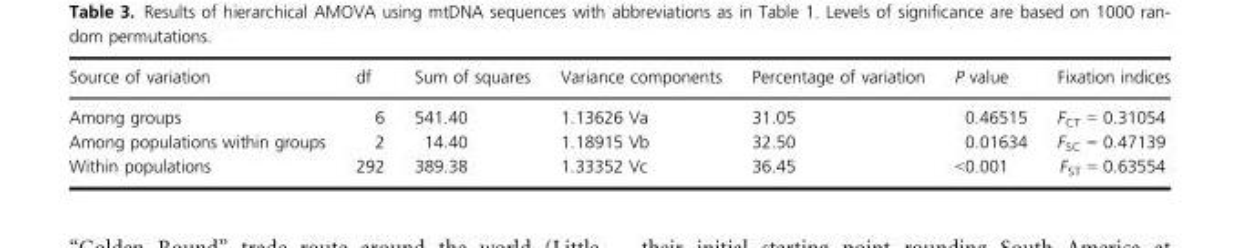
<table><thead><tr><td>Source of variation</td><td>df</td><td>Sum of squares</td><td>Variance components</td><td>Percentage of variation</td><td>P value</td><td>Fixation indices</td></tr></thead><tbody><tr><td>Among groups</td><td>6</td><td>541.40</td><td>1.13626 Va</td><td>31.05</td><td>0.46515</td><td>F<sub>CT</sub> = 0.31054</td></tr><tr><td>Among populations within groups</td><td>2</td><td>14.40</td><td>1.18915 Vb</td><td>32.50</td><td>0.01634</td><td>F<sub>SC</sub> = 0.47139</td></tr><tr><td>Within populations</td><td>292</td><td>389.38</td><td>1.33352 Vc</td><td>36.45</td><td>&lt;0.001</td><td>F<sub>ST</sub> = 0.63554</td></tr></tbody></table>